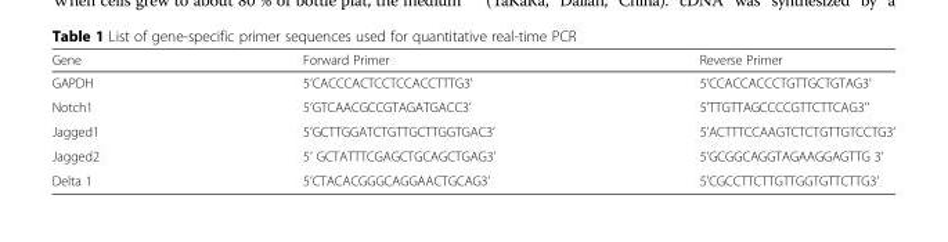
<table><thead><tr><td>Gene</td><td>Forward Primer</td><td>Reverse Primer</td></tr></thead><tbody><tr><td>GAPDH</td><td>5‘CACCCACTCCTCCACCTTTG3&#x27;</td><td>5‘CCACCACCCTGTTGCTGTAG3&#x27;</td></tr><tr><td>Notch1</td><td>5’GTCAACGCCGTAGATGACC3’</td><td>5’TTGTTAGCCCCGTTCTTCAG3’′</td></tr><tr><td>Jagged1</td><td>5’GCTTGGATCTGTTGCTTGGTGAC3’</td><td>5’ACTTTCCAAGTCTCTGTTGTCCTG3’</td></tr><tr><td>Jagged2</td><td>5’ GCTATTTCGAGCTGCAGCTGAG3’</td><td>5’GCGGCAGGTAGAAGGAGTTG 3’</td></tr><tr><td>Delta 1</td><td>5’CTACACGGGCAGGAACTGCAG3’</td><td>5’CGCCTTCTTGTTGGTGTTCTTG3’</td></tr></tbody></table>